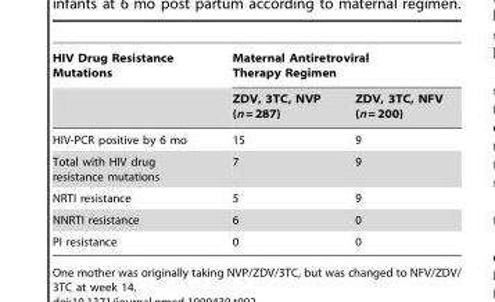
<table><thead><tr><td rowspan="2">HIV Drug Resistance Mutations</td><td colspan="2">Maternal Antiretroviral Therapy Regimen</td></tr><tr><td>ZDV, 3TC, NVP (n = 287)</td><td>ZDV, 3TC, NFV (n = 200)</td></tr></thead><tbody><tr><td>HIV-PCR positive by 6 mo</td><td>15</td><td>9</td></tr><tr><td>Total with HIV drug resistance mutations</td><td>7</td><td>9</td></tr><tr><td>NRTI resistance</td><td>5</td><td>9</td></tr><tr><td>NNRTI resistance</td><td>6</td><td>0</td></tr><tr><td>PI resistance</td><td>0</td><td>0</td></tr></tbody></table>